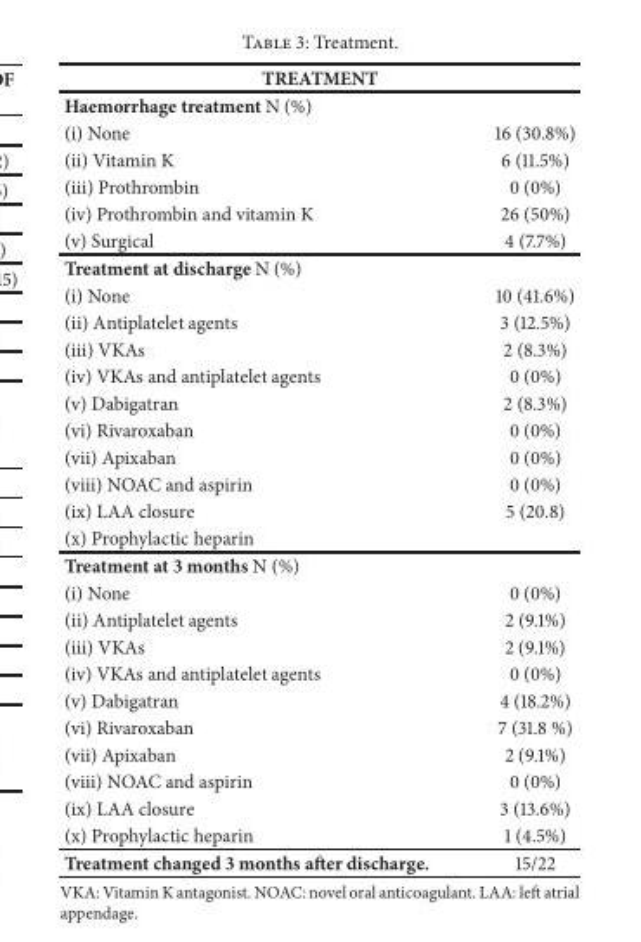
<table><thead><tr><td colspan="2">TREATMENT</td></tr><tr><td>Haemorrhage treatment N (%)</td><td></td></tr></thead><tbody><tr><td>(i) None</td><td>16 (30.8%)</td></tr><tr><td>(ii) Vitamin K</td><td>6 (11.5%)</td></tr><tr><td>(iii) Prothrombin</td><td>0 (0%)</td></tr><tr><td>(iv) Prothrombin and vitamin K</td><td>26 (50%)</td></tr><tr><td>(v) Surgical</td><td>4 (7.7%)</td></tr><tr><td colspan="2">Treatment at discharge N (%)</td></tr><tr><td>(i) None</td><td>10 (41.6%)</td></tr><tr><td>(ii) Antiplatelet agents</td><td>3 (12.5%)</td></tr><tr><td>(iii) VKAs</td><td>2 (8.3%)</td></tr><tr><td>(iv) VKAs and antiplatelet agents</td><td>0 (0%)</td></tr><tr><td>(v) Dabigatran</td><td>2 (8.3%)</td></tr><tr><td>(vi) Rivaroxaban</td><td>0 (0%)</td></tr><tr><td>(vii) Apixaban</td><td>0 (0%)</td></tr><tr><td>(viii) NOAC and aspirin</td><td>0 (0%)</td></tr><tr><td>(ix) LAA closure</td><td>5 (20.8)</td></tr><tr><td colspan="2">(x) Prophylactic heparin</td></tr><tr><td colspan="2">Treatment at 3 months N (%)</td></tr><tr><td>(i) None</td><td>0 (0%)</td></tr><tr><td>(ii) Antiplatelet agents</td><td>2 (9.1%)</td></tr><tr><td>(iii) VKAs</td><td>2 (9.1%)</td></tr><tr><td>(iv) VKAs and antiplatelet agents</td><td>0 (0%)</td></tr><tr><td>(v) Dabigatran</td><td>4 (18.2%)</td></tr><tr><td>(vi) Rivaroxaban</td><td>7 (31.8 %)</td></tr><tr><td>(vii) Apixaban</td><td>2 (9.1%)</td></tr><tr><td>(viii) NOAC and aspirin</td><td>0 (0%)</td></tr><tr><td>(ix) LAA closure</td><td>3 (13.6%)</td></tr><tr><td>(x) Prophylactic heparin</td><td>1 (4.5%)</td></tr><tr><td>Treatment changed 3 months after discharge.</td><td>15/22</td></tr></tbody></table>